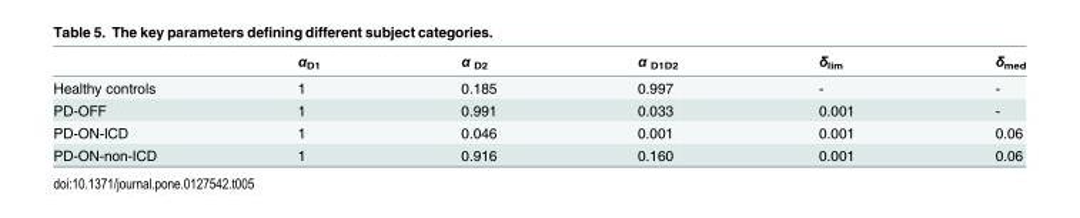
<table><thead><tr><td></td><td>α<sub>D1</sub></td><td>α <sub>D2</sub></td><td>α <sub>D1D2</sub></td><td>δ<sub>lim</sub></td><td>δ<sub>med</sub></td></tr></thead><tbody><tr><td>Healthy controls</td><td>1</td><td>0.185</td><td>0.997</td><td>-</td><td>-</td></tr><tr><td>PD-OFF</td><td>1</td><td>0.991</td><td>0.033</td><td>0.001</td><td>-</td></tr><tr><td>PD-ON-ICD</td><td>1</td><td>0.046</td><td>0.001</td><td>0.001</td><td>0.06</td></tr><tr><td>PD-ON-non-ICD</td><td>1</td><td>0.916</td><td>0.160</td><td>0.001</td><td>0.06</td></tr></tbody></table>